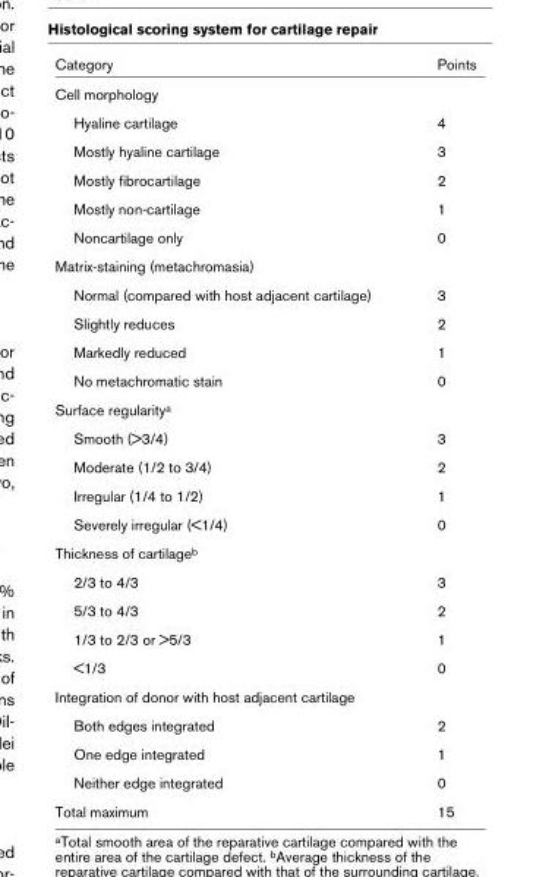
<table><thead><tr><td>Category</td><td>Points</td></tr></thead><tbody><tr><td colspan="2">Cell morphology</td></tr><tr><td>Hyaline cartilage</td><td>4</td></tr><tr><td>Mostly hyaline cartilage</td><td>3</td></tr><tr><td>Mostly fibrocartilage</td><td>2</td></tr><tr><td>Mostly non-cartilage</td><td>1</td></tr><tr><td>Noncartilage only</td><td>0</td></tr><tr><td colspan="2">Matrix-staining (metachromasia)</td></tr><tr><td>Normal (compared with host adjacent cartilage)</td><td>3</td></tr><tr><td>Slightly reduces</td><td>2</td></tr><tr><td>Markedly reduced</td><td>1</td></tr><tr><td>No metachromatic stain</td><td>0</td></tr><tr><td colspan="2">Surface regularity<sup>a</sup></td></tr><tr><td>Smooth (&gt;3/4)</td><td>3</td></tr><tr><td>Moderate (1/2 to 3/4)</td><td>2</td></tr><tr><td>Irregular (1/4 to 1/2)</td><td>1</td></tr><tr><td>Severely irregular (&lt;1/4)</td><td>0</td></tr><tr><td colspan="2">Thickness of cartilage<sup>b</sup></td></tr><tr><td>2/3 to 4/3</td><td>3</td></tr><tr><td>5/3 to 4/3</td><td>2</td></tr><tr><td>1/3 to 2/3 or &gt;5/3</td><td>1</td></tr><tr><td>&lt;1/3</td><td>0</td></tr><tr><td colspan="2">Integration of donor with host adjacent cartilage</td></tr><tr><td>Both edges integrated</td><td>2</td></tr><tr><td>One edge integrated</td><td>1</td></tr><tr><td>Neither edge integrated</td><td>0</td></tr><tr><td>Total maximum</td><td>15</td></tr></tbody></table>